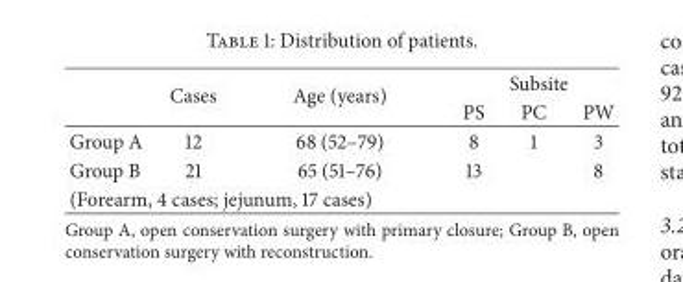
<table><thead><tr><td rowspan="2"></td><td rowspan="2">Cases</td><td rowspan="2">Age (years)</td><td colspan="3">Subsite</td></tr><tr><td>PS</td><td>PC</td><td>PW</td></tr></thead><tbody><tr><td>Group A</td><td>12</td><td>68 (52–79)</td><td>8</td><td>1</td><td>3</td></tr><tr><td>Group B</td><td>21</td><td>65 (51–76)</td><td>13</td><td></td><td>8</td></tr><tr><td colspan="3">(Forearm, 4 cases; jejunum, 17 cases)</td><td></td><td></td><td></td></tr></tbody></table>